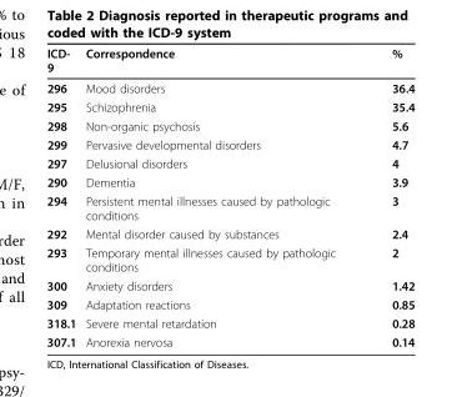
<table><thead><tr><td>ICD- 9</td><td>Correspondence</td><td>%</td></tr></thead><tbody><tr><td>296</td><td>Mood disorders</td><td>36.4</td></tr><tr><td>295</td><td>Schizophrenia</td><td>35.4</td></tr><tr><td>298</td><td>Non-organic psychosis</td><td>5.6</td></tr><tr><td>299</td><td>Pervasive developmental disorders</td><td>4.7</td></tr><tr><td>297</td><td>Delusional disorders</td><td>4</td></tr><tr><td>290</td><td>Dementia</td><td>3.9</td></tr><tr><td>294</td><td>Persistent mental illnesses caused by pathologic conditions</td><td>3</td></tr><tr><td>292</td><td>Mental disorder caused by substances</td><td>2.4</td></tr><tr><td>293</td><td>Temporary mental illnesses caused by pathologic conditions</td><td>2</td></tr><tr><td>300</td><td>Anxiety disorders</td><td>1.42</td></tr><tr><td>309</td><td>Adaptation reactions</td><td>0.85</td></tr><tr><td>318.1</td><td>Severe mental retardation</td><td>0.28</td></tr><tr><td>307.1</td><td>Anorexia nervosa</td><td>0.14</td></tr></tbody></table>